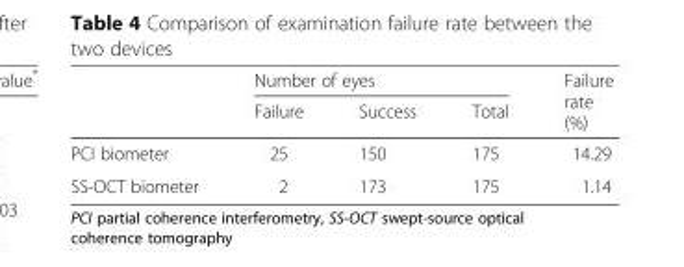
<table><thead><tr><td rowspan="2"></td><td colspan="3">Number of eyes</td><td rowspan="2">Failure rate (%)</td></tr><tr><td>Failure</td><td>Success</td><td>Total</td></tr></thead><tbody><tr><td>PCI biometer</td><td>25</td><td>150</td><td>175</td><td>14.29</td></tr><tr><td>SS-OCT biometer</td><td>2</td><td>173</td><td>175</td><td>1.14</td></tr></tbody></table>